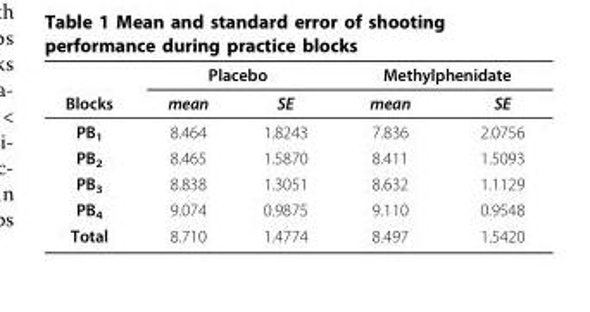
<table><thead><tr><td rowspan="2">Blocks</td><td colspan="2">Placebo</td><td colspan="2">Methylphenidate</td></tr><tr><td>mean</td><td>SE</td><td>mean</td><td>SE</td></tr></thead><tbody><tr><td>PB<sub>1</sub></td><td>8.464</td><td>1.8243</td><td>7.836</td><td>2.0756</td></tr><tr><td>PB<sub>2</sub></td><td>8.465</td><td>1.5870</td><td>8.411</td><td>1.5093</td></tr><tr><td>PB<sub>3</sub></td><td>8.838</td><td>1.3051</td><td>8.632</td><td>1.1129</td></tr><tr><td>PB<sub>4</sub></td><td>9.074</td><td>0.9875</td><td>9.110</td><td>0.9548</td></tr><tr><td>Total</td><td>8.710</td><td>1.4774</td><td>8.497</td><td>1.5420</td></tr></tbody></table>